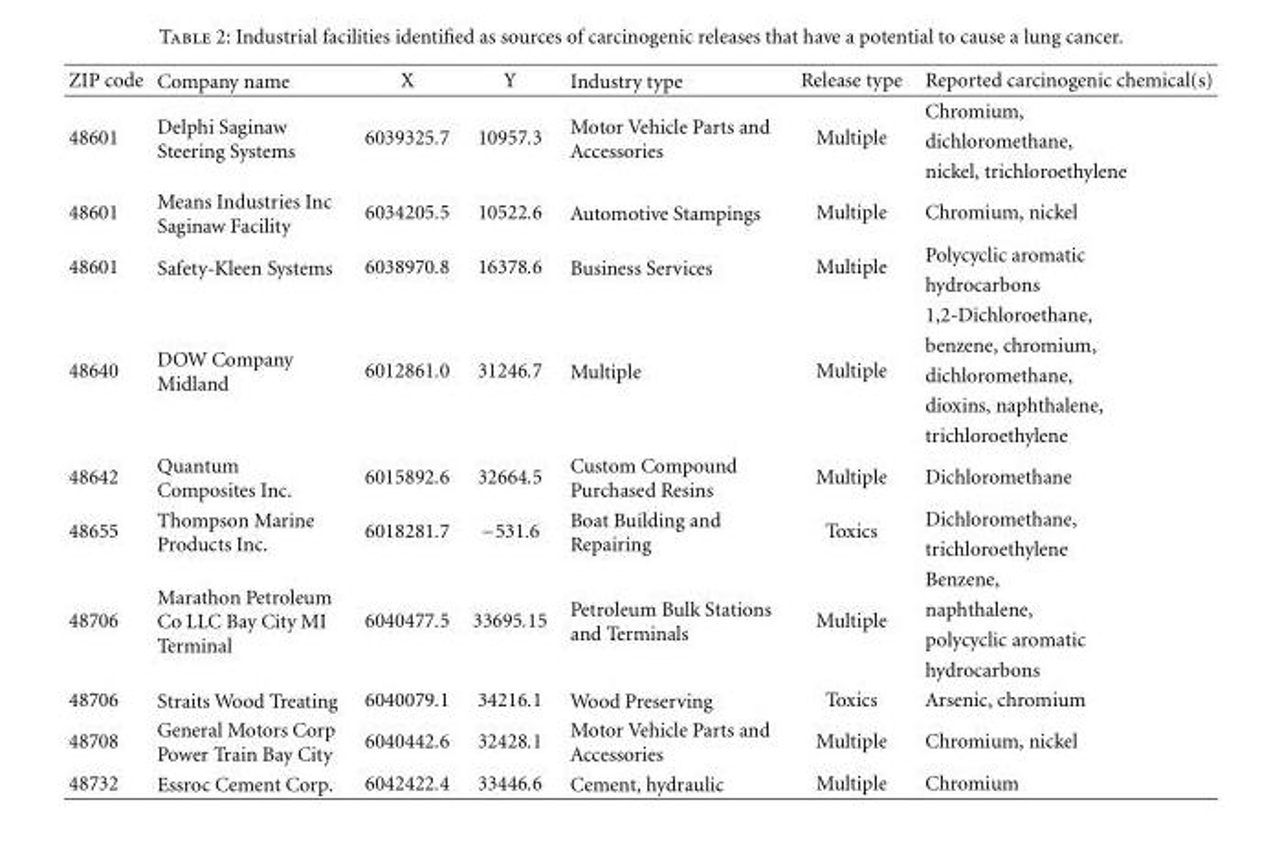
<table><thead><tr><td>ZIP code</td><td>Company name</td><td>X</td><td>Y</td><td>Industry type</td><td>Release type</td><td>Reported carcinogenic chemical(s)</td></tr></thead><tbody><tr><td rowspan="3">48601</td><td rowspan="3">Delphi Saginaw Steering Systems</td><td rowspan="3">6039325.7</td><td rowspan="3">10957.3</td><td rowspan="3">Motor Vehicle Parts and Accessories</td><td rowspan="3">Multiple</td><td>Chromium,</td></tr><tr><td>dichloromethane,</td></tr><tr><td>nickel, trichloroethylene</td></tr><tr><td>48601</td><td>Means Industries Inc Saginaw Facility</td><td>6034205.5</td><td>10522.6</td><td>Automotive Stampings</td><td>Multiple</td><td>Chromium, nickel</td></tr><tr><td rowspan="2">48601</td><td rowspan="2">Safety-Kleen Systems</td><td rowspan="2">6038970.8</td><td rowspan="2">16378.6</td><td rowspan="2">Business Services</td><td rowspan="2">Multiple</td><td>Polycyclic aromatic</td></tr><tr><td>hydrocarbons</td></tr><tr><td rowspan="5">48640</td><td rowspan="5">DOW Company Midland</td><td rowspan="5">6012861.0</td><td rowspan="5">31246.7</td><td rowspan="5">Multiple</td><td rowspan="5">Multiple</td><td>1,2-Dichloroethane,</td></tr><tr><td>benzene, chromium,</td></tr><tr><td>dichloromethane,</td></tr><tr><td>dioxins, naphthalene,</td></tr><tr><td>trichloroethylene</td></tr><tr><td>48642</td><td>Quantum Composites Inc.</td><td>6015892.6</td><td>32664.5</td><td>Custom Compound Purchased Resins</td><td>Multiple</td><td>Dichloromethane</td></tr><tr><td rowspan="2">48655</td><td rowspan="2">Thompson Marine Products Inc.</td><td rowspan="2">6018281.7</td><td rowspan="2">−531.6</td><td rowspan="2">Boat Building and Repairing</td><td rowspan="2">Toxics</td><td>Dichloromethane,</td></tr><tr><td>trichloroethylene</td></tr><tr><td rowspan="4">48706</td><td rowspan="4">Marathon Petroleum Co LLC Bay City MI Terminal</td><td rowspan="4">6040477.5</td><td rowspan="4">33695.15</td><td rowspan="4">Petroleum Bulk Stations and Terminals</td><td rowspan="4">Multiple</td><td>Benzene,</td></tr><tr><td>naphthalene,</td></tr><tr><td>polycyclic aromatic</td></tr><tr><td>hydrocarbons</td></tr><tr><td>48706</td><td>Straits Wood Treating</td><td>6040079.1</td><td>34216.1</td><td>Wood Preserving</td><td>Toxics</td><td>Arsenic, chromium</td></tr><tr><td>48708</td><td>General Motors Corp Power Train Bay City</td><td>6040442.6</td><td>32428.1</td><td>Motor Vehicle Parts and Accessories</td><td>Multiple</td><td>Chromium, nickel</td></tr><tr><td>48732</td><td>Essroc Cement Corp.</td><td>6042422.4</td><td>33446.6</td><td>Cement, hydraulic</td><td>Multiple</td><td>Chromium</td></tr></tbody></table>